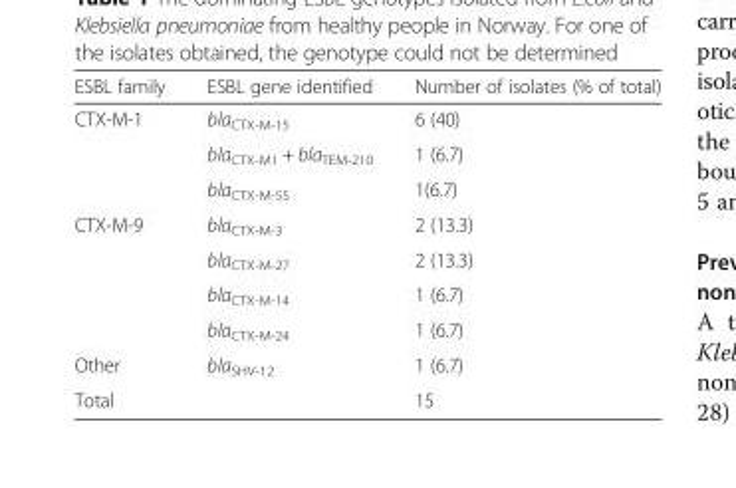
<table><thead><tr><td>ESBL family</td><td>ESBL gene identified</td><td>Number of isolates (% of total)</td></tr></thead><tbody><tr><td rowspan="3">CTX-M-1</td><td>bla<sub>CTX-M-15</sub></td><td>6 (40)</td></tr><tr><td>bla<sub>CTX-M1</sub> + bla<sub>TEM-210</sub></td><td>1 (6.7)</td></tr><tr><td>bla<sub>CTX-M-55</sub></td><td>1(6.7)</td></tr><tr><td rowspan="4">CTX-M-9</td><td>bla<sub>CTX-M-3</sub></td><td>2 (13.3)</td></tr><tr><td>bla<sub>CTX-M-27</sub></td><td>2 (13.3)</td></tr><tr><td>bla<sub>CTX-M-14</sub></td><td>1 (6.7)</td></tr><tr><td>bla<sub>CTX-M-24</sub></td><td>1 (6.7)</td></tr><tr><td>Other</td><td>bla<sub>SHV-12</sub></td><td>1 (6.7)</td></tr><tr><td>Total</td><td></td><td>15</td></tr></tbody></table>